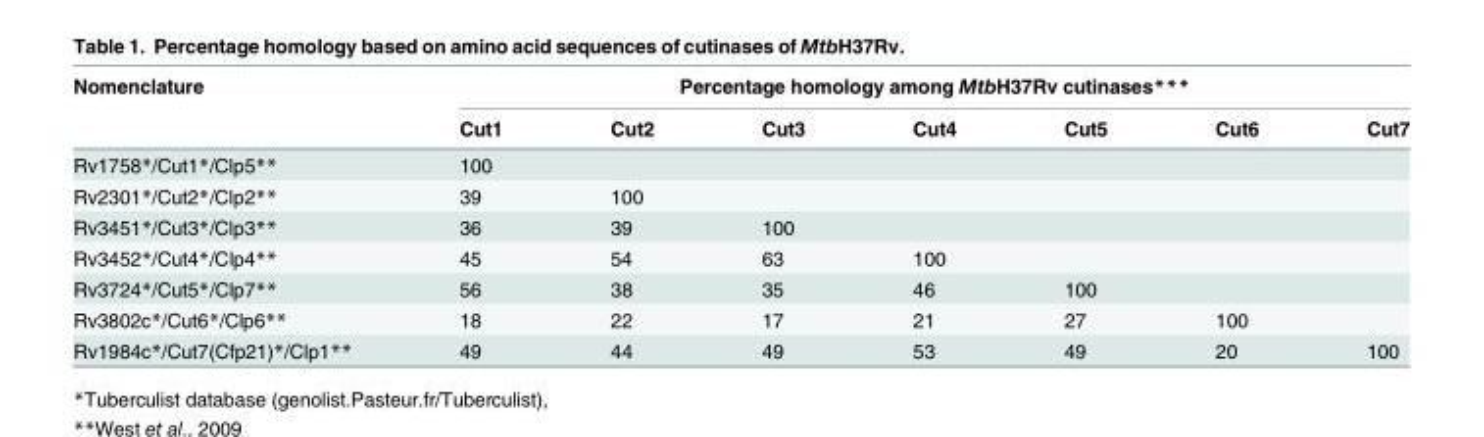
<table><thead><tr><td rowspan="2">Nomenclature</td><td colspan="7">Percentage homology among MtbH37Rv cutinases***</td></tr><tr><td>Cut1</td><td>Cut2</td><td>Cut3</td><td>Cut4</td><td>Cut5</td><td>Cut6</td><td>Cut7</td></tr></thead><tbody><tr><td>Rv1758*/Cut1*/Clp5**</td><td>100</td><td></td><td></td><td></td><td></td><td></td><td></td></tr><tr><td>Rv2301*/Cut2*/Clp2**</td><td>39</td><td>100</td><td></td><td></td><td></td><td></td><td></td></tr><tr><td>Rv3451*/Cut3*/Clp3**</td><td>36</td><td>39</td><td>100</td><td></td><td></td><td></td><td></td></tr><tr><td>Rv3452*/Cut4*/Clp4**</td><td>45</td><td>54</td><td>63</td><td>100</td><td></td><td></td><td></td></tr><tr><td>Rv3724*/Cut5*/Clp7**</td><td>56</td><td>38</td><td>35</td><td>46</td><td>100</td><td></td><td></td></tr><tr><td>Rv3802c*/Cut6*/Clp6**</td><td>18</td><td>22</td><td>17</td><td>21</td><td>27</td><td>100</td><td></td></tr><tr><td>Rv1984c*/Cut7(Cfp21)*/Clp1**</td><td>49</td><td>44</td><td>49</td><td>53</td><td>49</td><td>20</td><td>100</td></tr></tbody></table>